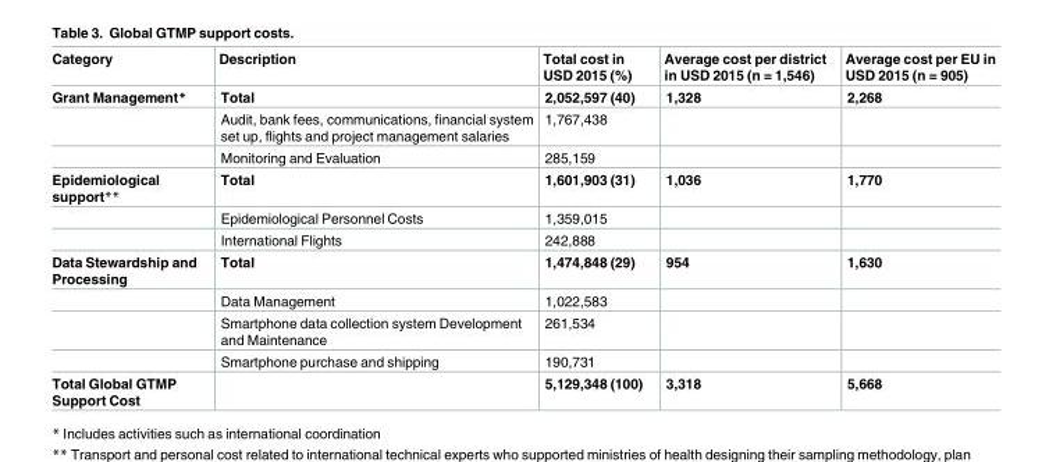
<table><thead><tr><td>Category</td><td>Description</td><td>Total cost in USD 2015 (%)</td><td>Average cost per district in USD 2015 (n = 1,546)</td><td>Average cost per EU in USD 2015 (n = 905)</td></tr></thead><tbody><tr><td rowspan="3">Grant Management*</td><td>Total</td><td>2,052,597 (40)</td><td>1,328</td><td>2,268</td></tr><tr><td>Audit, bank fees, communications, financial system set up, flights and project management salaries</td><td>1,767,438</td><td></td><td></td></tr><tr><td>Monitoring and Evaluation</td><td>285,159</td><td></td><td></td></tr><tr><td rowspan="3">Epidemiological support**</td><td>Total</td><td>1,601,903 (31)</td><td>1,036</td><td>1,770</td></tr><tr><td>Epidemiological Personnel Costs</td><td>1,359,015</td><td></td><td></td></tr><tr><td>International Flights</td><td>242,888</td><td></td><td></td></tr><tr><td rowspan="4">Data Stewardship and Processing</td><td>Total</td><td>1,474,848 (29)</td><td>954</td><td>1,630</td></tr><tr><td>Data Management</td><td>1,022,583</td><td></td><td></td></tr><tr><td>Smartphone data collection system Development and Maintenance</td><td>261,534</td><td></td><td></td></tr><tr><td>Smartphone purchase and shipping</td><td>190,731</td><td></td><td></td></tr><tr><td>Total Global GTMP Support Cost</td><td></td><td>5,129,348 (100)</td><td>3,318</td><td>5,668</td></tr></tbody></table>